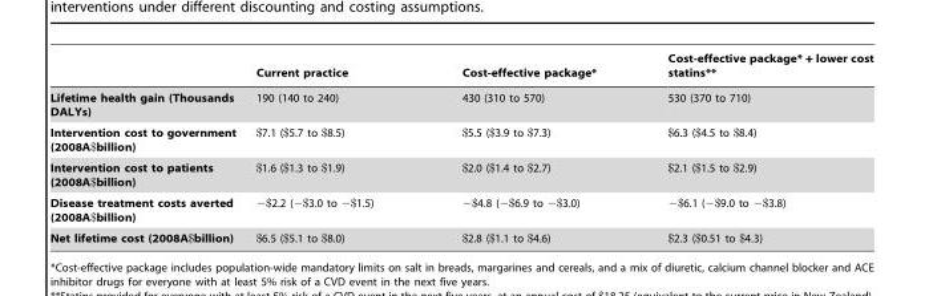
<table><thead><tr><td></td><td>Current practice</td><td>Cost-effective package*</td><td>Cost-effective package* + lower cost statins**</td></tr></thead><tbody><tr><td>Lifetime health gain (Thousands DALYs)</td><td>190 (140 to 240)</td><td>430 (310 to 570)</td><td>530 (370 to 710)</td></tr><tr><td>Intervention cost to government (2008A$billion)</td><td>$7.1 ($5.7 to $8.5)</td><td>$5.5 ($3.9 to $7.3)</td><td>$6.3 ($4.5 to $8.4)</td></tr><tr><td>Intervention cost to patients (2008A$billion)</td><td>$1.6 ($1.3 to $1.9)</td><td>$2.0 ($1.4 to $2.7)</td><td>$2.1 ($1.5 to $2.9)</td></tr><tr><td>Disease treatment costs averted (2008A$billion)</td><td>−$2.2 (−$3.0 to −$1.5)</td><td>−$4.8 (−$6.9 to −$3.0)</td><td>−$6.1 (−$9.0 to −$3.8)</td></tr><tr><td>Net lifetime cost (2008A$billion)</td><td>$6.5 ($5.1 to $8.0)</td><td>$2.8 ($1.1 to $4.6)</td><td>$2.3 ($0.51 to $4.3)</td></tr></tbody></table>